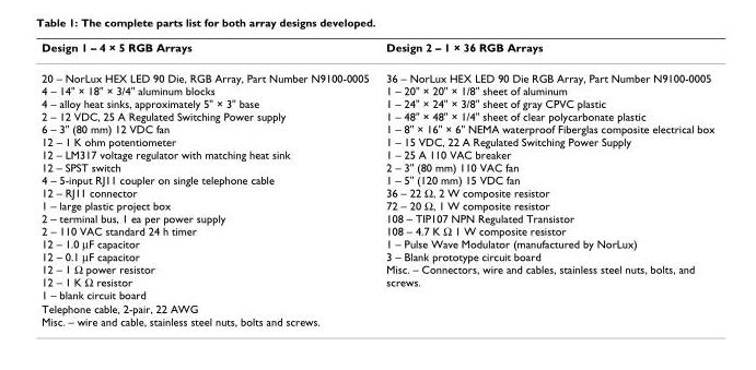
<table><thead><tr><td>Design 1 – 4 × 5 RGB Arrays</td><td>Design 2 – 1 × 36 RGB Arrays</td></tr></thead><tbody><tr><td>20 – NorLux HEX LED 90 Die, RGB Array, Part Number N9100-0005 4 – 14&quot; × 18&quot; × 3/4&quot; aluminum blocks 4 – alloy heat sinks, approximately 5&quot; × 3&quot; base 2 – 12 VDC, 25 A Regulated Switching Power supply 6 – 3&quot; (80 mm) 12 VDC fan 12 – 1 K ohm potentiometer 12 – LM317 voltage regulator with matching heat sink 12 – SPST switch 4 – 5-input RJ11 coupler on single telephone cable 12 – RJ11 connector 1 – large plastic project box 2 – terminal bus, 1 ea per power supply 2 – 110 VAC standard 24 h timer 12 – 1.0 µF capacitor 12 – 0.1 µF capacitor 12 – 1 Ω power resistor 12 – 1 K Ω resistor 1 – blank circuit board</td><td>36 – NorLux HEX LED 90 Die RGB Array, Part Number N9100-0005 1 – 20&quot; × 20&quot; × 1/8&quot; sheet of aluminum 1 – 24&quot; × 24&quot; × 3/8&quot; sheet of gray CPVC plastic 1 – 48&quot; × 48&quot; × 1/4&quot; sheet of clear polycarbonate plastic 1 – 8&quot; × 16&quot; × 6&quot; NEMA waterproof Fiberglas composite electrical box 1 – 15 VDC, 22 A Regulated Switching Power Supply 1 – 25 A 110 VAC breaker 2 – 3&quot; (80 mm) 110 VAC fan 1 – 5&quot; (120 mm) 15 VDC fan 36 – 22 Ω, 2 W composite resistor 72 – 20 Ω, 1 W composite resistor 108 – TIP107 NPN Regulated Transistor 108 – 4.7 K Ω 1 W composite resistor 1 – Pulse Wave Modulator (manufactured by NorLux) 3 – Blank prototype circuit board Misc. – Connectors, wire and cables, stainless steel nuts, bolts, and screws.</td></tr><tr><td>Telephone cable, 2-pair, 22 AWG Misc. – wire and cable, stainless steel nuts, bolts and screws.</td><td></td></tr></tbody></table>